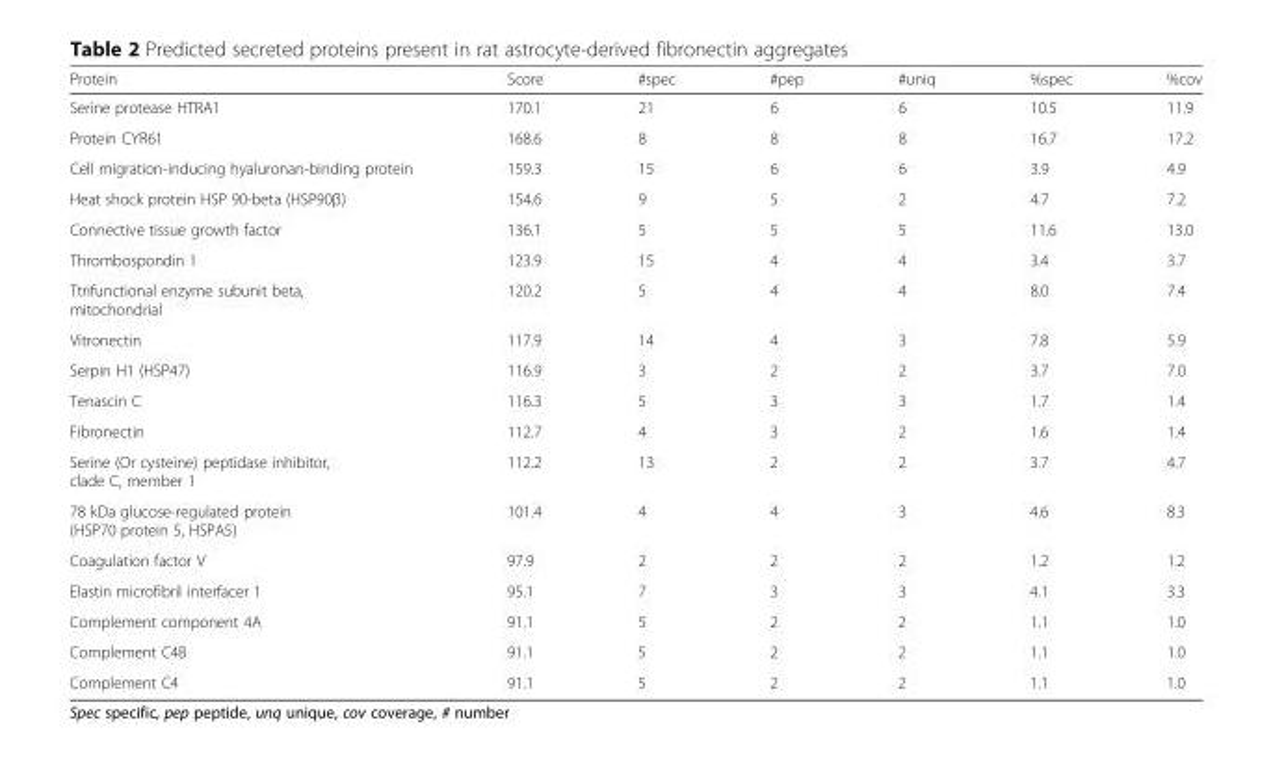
<table><thead><tr><td>Protein</td><td>Score</td><td>#spec</td><td>#pep</td><td>#uniq</td><td>%spec</td><td>%cov</td></tr></thead><tbody><tr><td>Serine protease HTRA1</td><td>170.1</td><td>21</td><td>6</td><td>6</td><td>10.5</td><td>11.9</td></tr><tr><td>Protein CYR61</td><td>168.6</td><td>8</td><td>8</td><td>8</td><td>16.7</td><td>17.2</td></tr><tr><td>Cell migration-inducing hyaluronan-binding protein</td><td>159.3</td><td>15</td><td>6</td><td>6</td><td>3.9</td><td>4.9</td></tr><tr><td>Heat shock protein HSP 90-beta (HSP90β)</td><td>154.6</td><td>9</td><td>5</td><td>2</td><td>4.7</td><td>7.2</td></tr><tr><td>Connective tissue growth factor</td><td>136.1</td><td>5</td><td>5</td><td>5</td><td>11.6</td><td>13.0</td></tr><tr><td>Thrombospondin 1</td><td>123.9</td><td>15</td><td>4</td><td>4</td><td>3.4</td><td>3.7</td></tr><tr><td>Ttrifunctional enzyme subunit beta, mitochondrial</td><td>120.2</td><td>5</td><td>4</td><td>4</td><td>8.0</td><td>7.4</td></tr><tr><td>Vitronectin</td><td>117.9</td><td>14</td><td>4</td><td>3</td><td>7.8</td><td>5.9</td></tr><tr><td>Serpin H1 (HSP47)</td><td>116.9</td><td>3</td><td>2</td><td>2</td><td>3.7</td><td>7.0</td></tr><tr><td>Tenascin C</td><td>116.3</td><td>5</td><td>3</td><td>3</td><td>1.7</td><td>1.4</td></tr><tr><td>Fibronectin</td><td>112.7</td><td>4</td><td>3</td><td>2</td><td>1.6</td><td>1.4</td></tr><tr><td>Serine (Or cysteine) peptidase inhibitor, clade C, member 1</td><td>112.2</td><td>13</td><td>2</td><td>2</td><td>3.7</td><td>4.7</td></tr><tr><td>78 kDa glucose-regulated protein (HSP70 protein 5, HSPA5)</td><td>101.4</td><td>4</td><td>4</td><td>3</td><td>4.6</td><td>8.3</td></tr><tr><td>Coagulation factor V</td><td>97.9</td><td>2</td><td>2</td><td>2</td><td>1.2</td><td>1.2</td></tr><tr><td>Elastin microfibril interfacer 1</td><td>95.1</td><td>7</td><td>3</td><td>3</td><td>4.1</td><td>3.3</td></tr><tr><td>Complement component 4A</td><td>91.1</td><td>5</td><td>2</td><td>2</td><td>1.1</td><td>1.0</td></tr><tr><td>Complement C4B</td><td>91.1</td><td>5</td><td>2</td><td>2</td><td>1.1</td><td>1.0</td></tr><tr><td>Complement C4</td><td>91.1</td><td>5</td><td>2</td><td>2</td><td>1.1</td><td>1.0</td></tr></tbody></table>